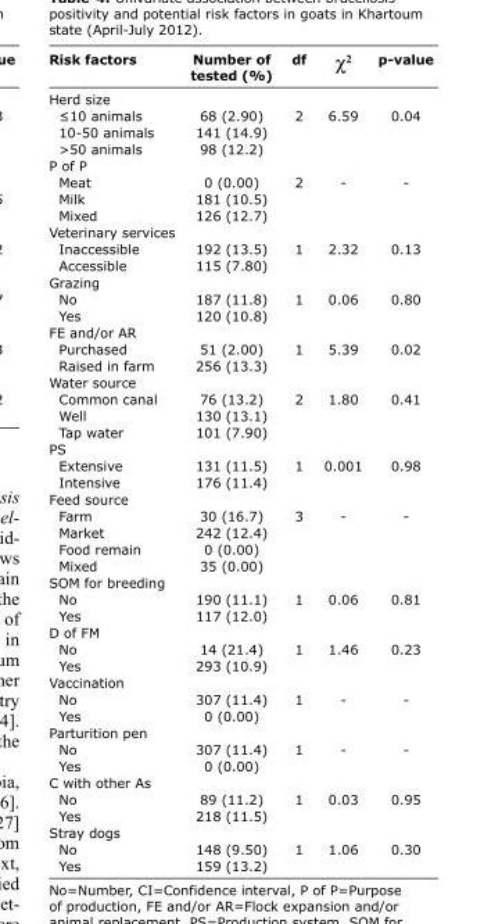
<table><thead><tr><td>Risk factors</td><td>Number of tested (%)</td><td>df</td><td>χ<sup>2</sup></td><td>p-value</td></tr></thead><tbody><tr><td colspan="5">Herd size</td></tr><tr><td>≤10 animals</td><td>68 (2.90)</td><td>2</td><td>6.59</td><td>0.04</td></tr><tr><td>10-50 animals</td><td>141 (14.9)</td><td></td><td></td><td></td></tr><tr><td>&gt;50 animals</td><td>98 (12.2)</td><td></td><td></td><td></td></tr><tr><td colspan="5">P of P</td></tr><tr><td>Meat</td><td>0 (0.00)</td><td>2</td><td>-</td><td>-</td></tr><tr><td>Milk</td><td>181 (10.5)</td><td></td><td></td><td></td></tr><tr><td>Mixed</td><td>126 (12.7)</td><td></td><td></td><td></td></tr><tr><td colspan="5">Veterinary services</td></tr><tr><td>Inaccessible</td><td>192 (13.5)</td><td>1</td><td>2.32</td><td>0.13</td></tr><tr><td>Accessible</td><td>115 (7.80)</td><td></td><td></td><td></td></tr><tr><td colspan="5">Grazing</td></tr><tr><td>No</td><td>187 (11.8)</td><td>1</td><td>0.06</td><td>0.80</td></tr><tr><td>Yes</td><td>120 (10.8)</td><td></td><td></td><td></td></tr><tr><td colspan="5">FE and/or AR</td></tr><tr><td>Purchased</td><td>51 (2.00)</td><td>1</td><td>5.39</td><td>0.02</td></tr><tr><td>Raised in farm</td><td>256 (13.3)</td><td></td><td></td><td></td></tr><tr><td colspan="5">Water source</td></tr><tr><td>Common canal</td><td>76 (13.2)</td><td>2</td><td>1.80</td><td>0.41</td></tr><tr><td>Well</td><td>130 (13.1)</td><td></td><td></td><td></td></tr><tr><td>Tap water</td><td>101 (7.90)</td><td></td><td></td><td></td></tr><tr><td colspan="5">PS</td></tr><tr><td>Extensive</td><td>131 (11.5)</td><td>1</td><td>0.001</td><td>0.98</td></tr><tr><td>Intensive</td><td>176 (11.4)</td><td></td><td></td><td></td></tr><tr><td colspan="5">Feed source</td></tr><tr><td>Farm</td><td>30 (16.7)</td><td>3</td><td>-</td><td>-</td></tr><tr><td>Market</td><td>242 (12.4)</td><td></td><td></td><td></td></tr><tr><td>Food remain</td><td>0 (0.00)</td><td></td><td></td><td></td></tr><tr><td>Mixed</td><td>35 (0.00)</td><td></td><td></td><td></td></tr><tr><td colspan="5">SOM for breeding</td></tr><tr><td>No</td><td>190 (11.1)</td><td>1</td><td>0.06</td><td>0.81</td></tr><tr><td>Yes</td><td>117 (12.0)</td><td></td><td></td><td></td></tr><tr><td colspan="5">D of FM</td></tr><tr><td>No</td><td>14 (21.4)</td><td>1</td><td>1.46</td><td>0.23</td></tr><tr><td>Yes</td><td>293 (10.9)</td><td></td><td></td><td></td></tr><tr><td colspan="5">Vaccination</td></tr><tr><td>No</td><td>307 (11.4)</td><td>1</td><td>-</td><td>-</td></tr><tr><td>Yes</td><td>0 (0.00)</td><td></td><td></td><td></td></tr><tr><td colspan="5">Parturition pen</td></tr><tr><td>No</td><td>307 (11.4)</td><td>1</td><td>-</td><td>-</td></tr><tr><td>Yes</td><td>0 (0.00)</td><td></td><td></td><td></td></tr><tr><td colspan="5">C with other As</td></tr><tr><td>No</td><td>89 (11.2)</td><td>1</td><td>0.03</td><td>0.95</td></tr><tr><td>Yes</td><td>218 (11.5)</td><td></td><td></td><td></td></tr><tr><td colspan="5">Stray dogs</td></tr><tr><td>No</td><td>148 (9.50)</td><td>1</td><td>1.06</td><td>0.30</td></tr><tr><td>Yes</td><td>159 (13.2)</td><td></td><td></td><td></td></tr></tbody></table>